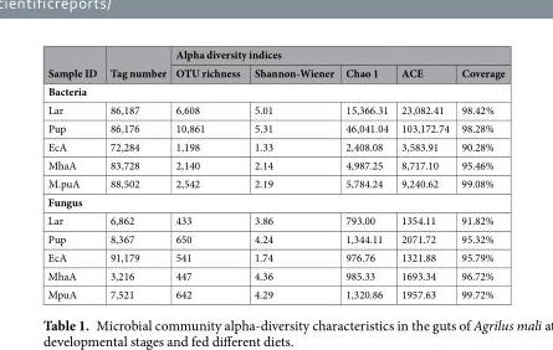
<table><thead><tr><td rowspan="2">Sample ID</td><td rowspan="2">Tag number</td><td colspan="5">Alpha diversity indices</td></tr><tr><td>OTU richness</td><td>Shannon-Wiener</td><td>Chao 1</td><td>ACE</td><td>Coverage</td></tr></thead><tbody><tr><td colspan="7">Bacteria</td></tr><tr><td>Lar</td><td>86,187</td><td>6,608</td><td>5.01</td><td>15,366.31</td><td>23,082.41</td><td>98.42%</td></tr><tr><td>Pup</td><td>86,176</td><td>10,861</td><td>5.31</td><td>46,041.04</td><td>103,172.74</td><td>98.28%</td></tr><tr><td>EcA</td><td>72,284</td><td>1,198</td><td>1.33</td><td>2,408.08</td><td>3,583.91</td><td>90.28%</td></tr><tr><td>MhaA</td><td>83,728</td><td>2,140</td><td>2.14</td><td>4,987.25</td><td>8,717.10</td><td>95.46%</td></tr><tr><td>M.puA</td><td>88,502</td><td>2,542</td><td>2.19</td><td>5,784.24</td><td>9,240.62</td><td>99.08%</td></tr><tr><td colspan="7">Fungus</td></tr><tr><td>Lar</td><td>6,862</td><td>433</td><td>3.86</td><td>793.00</td><td>1354.11</td><td>91.82%</td></tr><tr><td>Pup</td><td>8,367</td><td>650</td><td>4.24</td><td>1,344.11</td><td>2071.72</td><td>95.32%</td></tr><tr><td>EcA</td><td>91,179</td><td>541</td><td>1.74</td><td>976.76</td><td>1321.88</td><td>95.79%</td></tr><tr><td>MhaA</td><td>3,216</td><td>447</td><td>4.36</td><td>985.33</td><td>1693.34</td><td>96.72%</td></tr><tr><td>MpuA</td><td>7,521</td><td>642</td><td>4.29</td><td>1,320.86</td><td>1957.63</td><td>99.72%</td></tr></tbody></table>